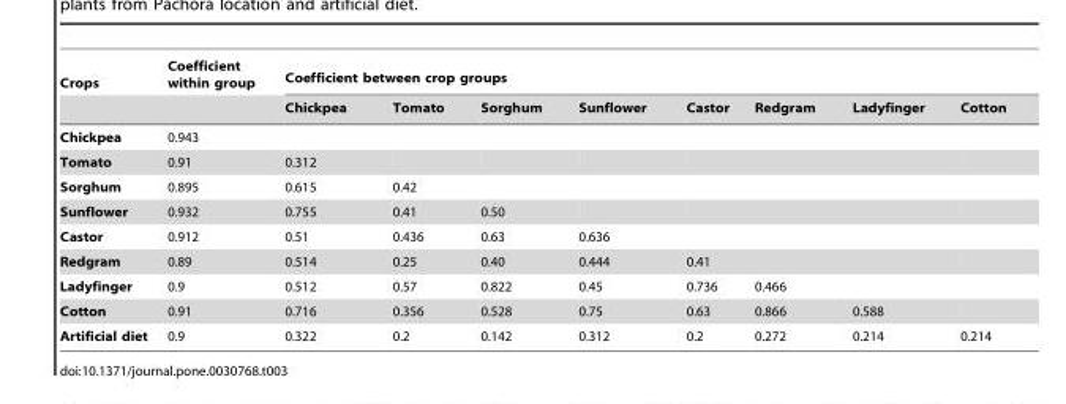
<table><thead><tr><td rowspan="2">Crops</td><td rowspan="2">Coefficient within group</td><td colspan="8">Coefficient between crop groups</td></tr><tr><td>Chickpea</td><td>Tomato</td><td>Sorghum</td><td>Sunflower</td><td>Castor</td><td>Redgram</td><td>Ladyfinger</td><td>Cotton</td></tr></thead><tbody><tr><td>Chickpea</td><td>0.943</td><td></td><td></td><td></td><td></td><td></td><td></td><td></td><td></td></tr><tr><td>Tomato</td><td>0.91</td><td>0.312</td><td></td><td></td><td></td><td></td><td></td><td></td><td></td></tr><tr><td>Sorghum</td><td>0.895</td><td>0.615</td><td>0.42</td><td></td><td></td><td></td><td></td><td></td><td></td></tr><tr><td>Sunflower</td><td>0.932</td><td>0.755</td><td>0.41</td><td>0.50</td><td></td><td></td><td></td><td></td><td></td></tr><tr><td>Castor</td><td>0.912</td><td>0.51</td><td>0.436</td><td>0.63</td><td>0.636</td><td></td><td></td><td></td><td></td></tr><tr><td>Redgram</td><td>0.89</td><td>0.514</td><td>0.25</td><td>0.40</td><td>0.444</td><td>0.41</td><td></td><td></td><td></td></tr><tr><td>Ladyfinger</td><td>0.9</td><td>0.512</td><td>0.57</td><td>0.822</td><td>0.45</td><td>0.736</td><td>0.466</td><td></td><td></td></tr><tr><td>Cotton</td><td>0.91</td><td>0.716</td><td>0.356</td><td>0.528</td><td>0.75</td><td>0.63</td><td>0.866</td><td>0.588</td><td></td></tr><tr><td>Artificial diet</td><td>0.9</td><td>0.322</td><td>0.2</td><td>0.142</td><td>0.312</td><td>0.2</td><td>0.272</td><td>0.214</td><td>0.214</td></tr></tbody></table>